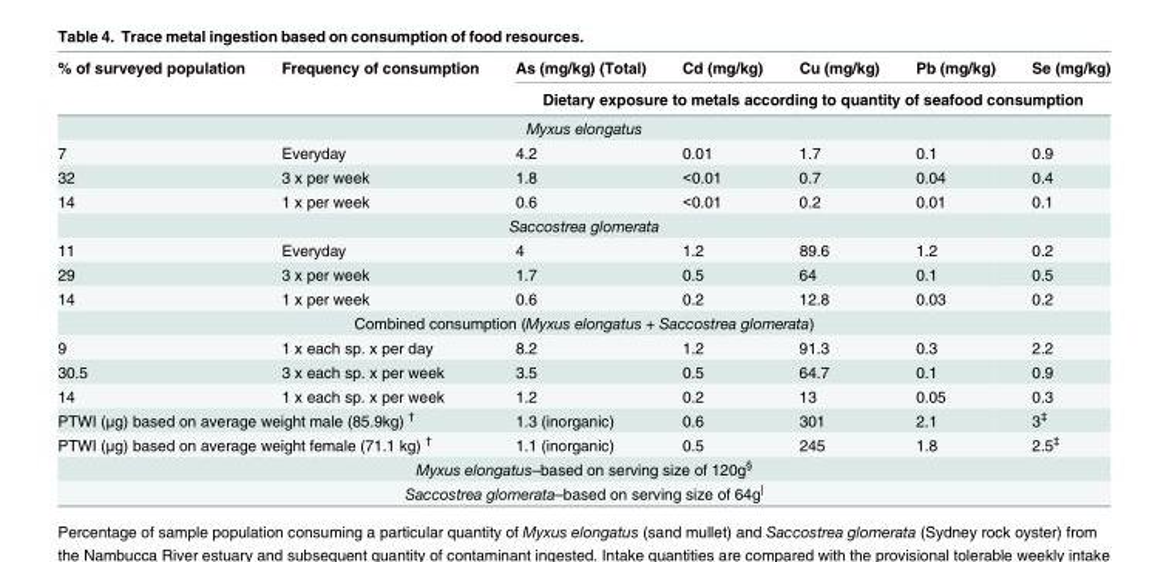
<table><thead><tr><td rowspan="2">% of surveyed population</td><td rowspan="2">Frequency of consumption</td><td>As (mg/kg) (Total)</td><td>Cd (mg/kg)</td><td>Cu (mg/kg)</td><td>Pb (mg/kg)</td><td>Se (mg/kg)</td></tr><tr><td colspan="5">Dietary exposure to metals according to quantity of seafood consumption</td></tr></thead><tbody><tr><td colspan="7">Myxus elongatus</td></tr><tr><td>7</td><td>Everyday</td><td>4.2</td><td>0.01</td><td>1.7</td><td>0.1</td><td>0.9</td></tr><tr><td>32</td><td>3 x per week</td><td>1.8</td><td>&lt;0.01</td><td>0.7</td><td>0.04</td><td>0.4</td></tr><tr><td>14</td><td>1 x per week</td><td>0.6</td><td>&lt;0.01</td><td>0.2</td><td>0.01</td><td>0.1</td></tr><tr><td colspan="7">Saccostrea glomerata</td></tr><tr><td>11</td><td>Everyday</td><td>4</td><td>1.2</td><td>89.6</td><td>1.2</td><td>0.2</td></tr><tr><td>29</td><td>3 x per week</td><td>1.7</td><td>0.5</td><td>64</td><td>0.1</td><td>0.5</td></tr><tr><td>14</td><td>1 x per week</td><td>0.6</td><td>0.2</td><td>12.8</td><td>0.03</td><td>0.2</td></tr><tr><td colspan="7">Combined consumption (Myxus elongatus + Saccostrea glomerata)</td></tr><tr><td>9</td><td>1 x each sp. x per day</td><td>8.2</td><td>1.2</td><td>91.3</td><td>0.3</td><td>2.2</td></tr><tr><td>30.5</td><td>3 x each sp. x per week</td><td>3.5</td><td>0.5</td><td>64.7</td><td>0.1</td><td>0.9</td></tr><tr><td>14</td><td>1 x each sp. x per week</td><td>1.2</td><td>0.2</td><td>13</td><td>0.05</td><td>0.3</td></tr><tr><td colspan="2">PTWI (μg) based on average weight male (85.9kg) <sup>†</sup></td><td>1.3 (inorganic)</td><td>0.6</td><td>301</td><td>2.1</td><td>3<sup>‡</sup></td></tr><tr><td colspan="2">PTWI (μg) based on average weight female (71.1 kg) <sup>†</sup></td><td>1.1 (inorganic)</td><td>0.5</td><td>245</td><td>1.8</td><td>2.5<sup>‡</sup></td></tr><tr><td colspan="7">Myxus elongatus–based on serving size of 120g<sup>§</sup></td></tr><tr><td colspan="7">Saccostrea glomerata–based on serving size of 64g<sup>|</sup></td></tr></tbody></table>